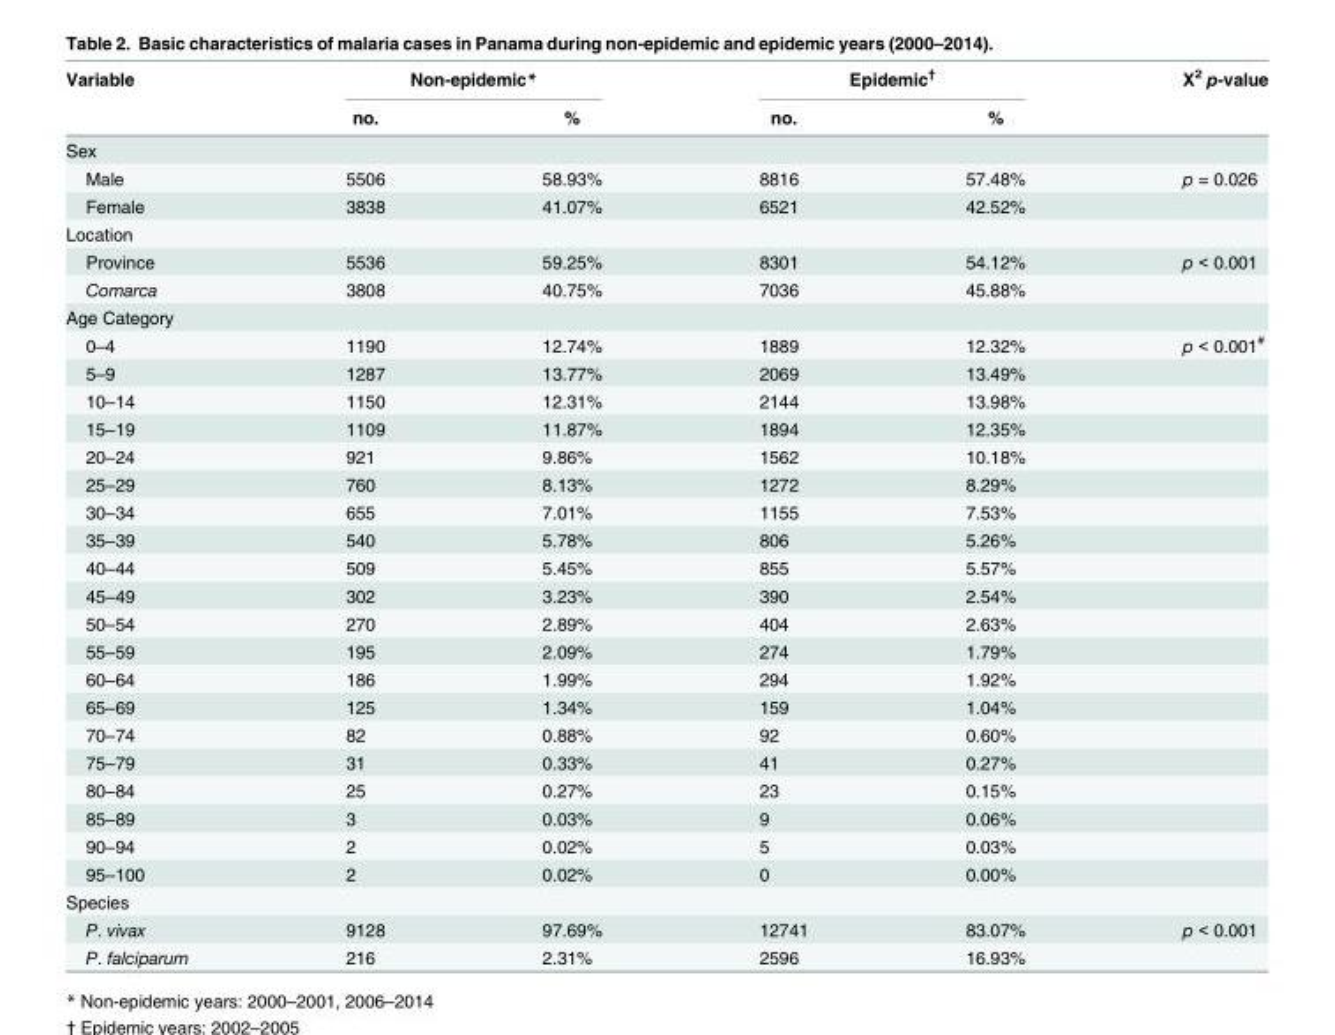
<table><thead><tr><td rowspan="2">Variable</td><td colspan="2">Non-epidemic*</td><td colspan="2">Epidemic<sup>†</sup></td><td rowspan="2">X<sup>2</sup> p-value</td></tr><tr><td>no.</td><td>%</td><td>no.</td><td>%</td></tr></thead><tbody><tr><td colspan="6">Sex</td></tr><tr><td>Male</td><td>5506</td><td>58.93%</td><td>8816</td><td>57.48%</td><td>p = 0.026</td></tr><tr><td>Female</td><td>3838</td><td>41.07%</td><td>6521</td><td>42.52%</td><td></td></tr><tr><td colspan="6">Location</td></tr><tr><td>Province</td><td>5536</td><td>59.25%</td><td>8301</td><td>54.12%</td><td>p &lt; 0.001</td></tr><tr><td>Comarca</td><td>3808</td><td>40.75%</td><td>7036</td><td>45.88%</td><td></td></tr><tr><td colspan="6">Age Category</td></tr><tr><td>0–4</td><td>1190</td><td>12.74%</td><td>1889</td><td>12.32%</td><td>p &lt; 0.001<sup>#</sup></td></tr><tr><td>5–9</td><td>1287</td><td>13.77%</td><td>2069</td><td>13.49%</td><td></td></tr><tr><td>10–14</td><td>1150</td><td>12.31%</td><td>2144</td><td>13.98%</td><td></td></tr><tr><td>15–19</td><td>1109</td><td>11.87%</td><td>1894</td><td>12.35%</td><td></td></tr><tr><td>20–24</td><td>921</td><td>9.86%</td><td>1562</td><td>10.18%</td><td></td></tr><tr><td>25–29</td><td>760</td><td>8.13%</td><td>1272</td><td>8.29%</td><td></td></tr><tr><td>30–34</td><td>655</td><td>7.01%</td><td>1155</td><td>7.53%</td><td></td></tr><tr><td>35–39</td><td>540</td><td>5.78%</td><td>806</td><td>5.26%</td><td></td></tr><tr><td>40–44</td><td>509</td><td>5.45%</td><td>855</td><td>5.57%</td><td></td></tr><tr><td>45–49</td><td>302</td><td>3.23%</td><td>390</td><td>2.54%</td><td></td></tr><tr><td>50–54</td><td>270</td><td>2.89%</td><td>404</td><td>2.63%</td><td></td></tr><tr><td>55–59</td><td>195</td><td>2.09%</td><td>274</td><td>1.79%</td><td></td></tr><tr><td>60–64</td><td>186</td><td>1.99%</td><td>294</td><td>1.92%</td><td></td></tr><tr><td>65–69</td><td>125</td><td>1.34%</td><td>159</td><td>1.04%</td><td></td></tr><tr><td>70–74</td><td>82</td><td>0.88%</td><td>92</td><td>0.60%</td><td></td></tr><tr><td>75–79</td><td>31</td><td>0.33%</td><td>41</td><td>0.27%</td><td></td></tr><tr><td>80–84</td><td>25</td><td>0.27%</td><td>23</td><td>0.15%</td><td></td></tr><tr><td>85–89</td><td>3</td><td>0.03%</td><td>9</td><td>0.06%</td><td></td></tr><tr><td>90–94</td><td>2</td><td>0.02%</td><td>5</td><td>0.03%</td><td></td></tr><tr><td>95–100</td><td>2</td><td>0.02%</td><td>0</td><td>0.00%</td><td></td></tr><tr><td colspan="6">Species</td></tr><tr><td>P. vivax</td><td>9128</td><td>97.69%</td><td>12741</td><td>83.07%</td><td>p &lt; 0.001</td></tr><tr><td>P. falciparum</td><td>216</td><td>2.31%</td><td>2596</td><td>16.93%</td><td></td></tr></tbody></table>